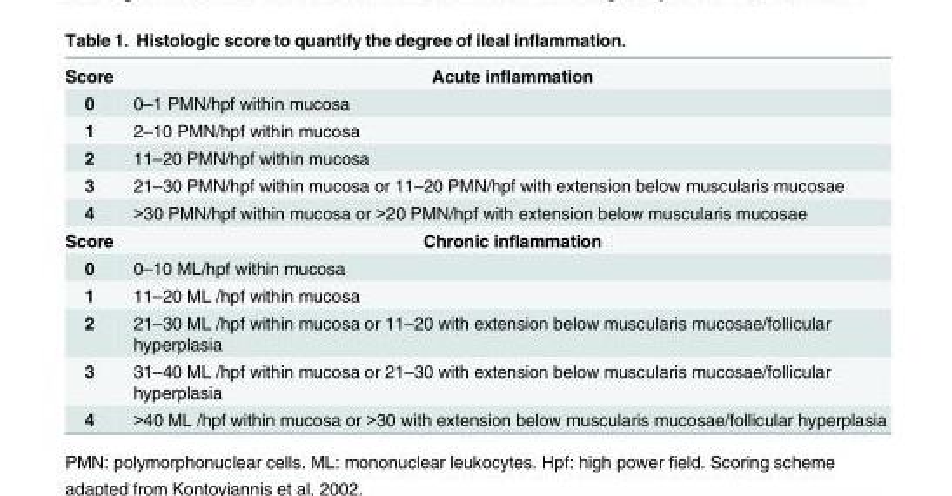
<table><tbody><tr><td>Score</td><td>Acute inflammation</td></tr><tr><td>0</td><td>0–1 PMN/hpf within mucosa</td></tr><tr><td>1</td><td>2–10 PMN/hpf within mucosa</td></tr><tr><td>2</td><td>11–20 PMN/hpf within mucosa</td></tr><tr><td>3</td><td>21–30 PMN/hpf within mucosa or 11–20 PMN/hpf with extension below muscularis mucosae</td></tr><tr><td>4</td><td>&gt;30 PMN/hpf within mucosa or &gt;20 PMN/hpf with extension below muscularis mucosae</td></tr><tr><td>Score</td><td>Chronic inflammation</td></tr><tr><td>0</td><td>0–10 ML/hpf within mucosa</td></tr><tr><td>1</td><td>11–20 ML /hpf within mucosa</td></tr><tr><td>2</td><td>21–30 ML /hpf within mucosa or 11–20 with extension below muscularis mucosae/follicular hyperplasia</td></tr><tr><td>3</td><td>31–40 ML /hpf within mucosa or 21–30 with extension below muscularis mucosae/follicular hyperplasia</td></tr><tr><td>4</td><td>&gt;40 ML /hpf within mucosa or &gt;30 with extension below muscularis mucosae/follicular hyperplasia</td></tr></tbody></table>